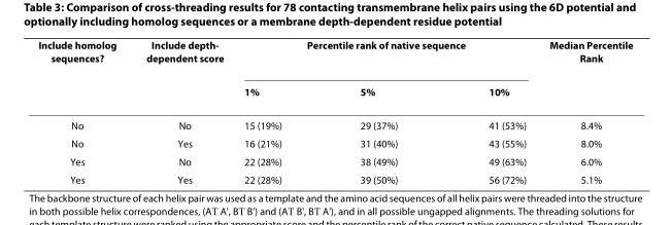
<table><thead><tr><td rowspan="2">Include homolog sequences?</td><td rowspan="2">Include depth- dependent score</td><td colspan="3">Percentile rank of native sequence</td><td rowspan="2">Median Percentile Rank</td></tr><tr><td>1%</td><td>5%</td><td>10%</td></tr></thead><tbody><tr><td>No</td><td>No</td><td>15 (19%)</td><td>29 (37%)</td><td>41 (53%)</td><td>8.4%</td></tr><tr><td>No</td><td>Yes</td><td>16 (21%)</td><td>31 (40%)</td><td>43 (55%)</td><td>8.0%</td></tr><tr><td>Yes</td><td>No</td><td>22 (28%)</td><td>38 (49%)</td><td>49 (63%)</td><td>6.0%</td></tr><tr><td>Yes</td><td>Yes</td><td>22 (28%)</td><td>39 (50%)</td><td>56 (72%)</td><td>5.1%</td></tr></tbody></table>